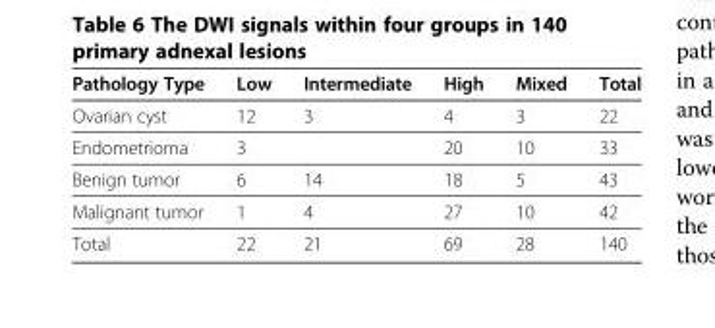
<table><thead><tr><td>Pathology Type</td><td>Low</td><td>Intermediate</td><td>High</td><td>Mixed</td><td>Total</td></tr></thead><tbody><tr><td>Ovarian cyst</td><td>12</td><td>3</td><td>4</td><td>3</td><td>22</td></tr><tr><td>Endometrioma</td><td>3</td><td></td><td>20</td><td>10</td><td>33</td></tr><tr><td>Benign tumor</td><td>6</td><td>14</td><td>18</td><td>5</td><td>43</td></tr><tr><td>Malignant tumor</td><td>1</td><td>4</td><td>27</td><td>10</td><td>42</td></tr><tr><td>Total</td><td>22</td><td>21</td><td>69</td><td>28</td><td>140</td></tr></tbody></table>